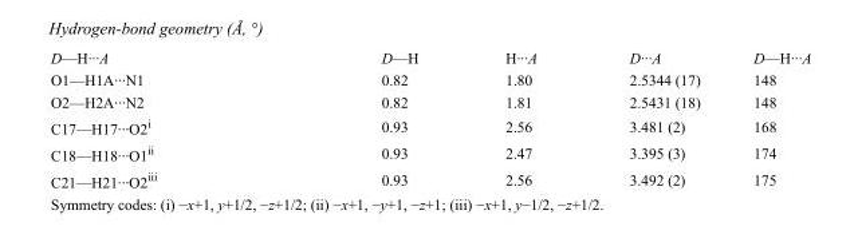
<table><tbody><tr><td>D—H···A</td><td>D—H</td><td>H···A</td><td>D···A</td><td>D—H···A</td></tr><tr><td>O1—H1A···N1</td><td>0.82</td><td>1.80</td><td>2.5344 (17)</td><td>148</td></tr><tr><td>O2—H2A···N2</td><td>0.82</td><td>1.81</td><td>2.5431 (18)</td><td>148</td></tr><tr><td>C17—H17···O2<sup>i</sup></td><td>0.93</td><td>2.56</td><td>3.481 (2)</td><td>168</td></tr><tr><td>C18—H18···O1<sup>ii</sup></td><td>0.93</td><td>2.47</td><td>3.395 (3)</td><td>174</td></tr><tr><td>C21—H21···O2<sup>iii</sup></td><td>0.93</td><td>2.56</td><td>3.492 (2)</td><td>175</td></tr></tbody></table>